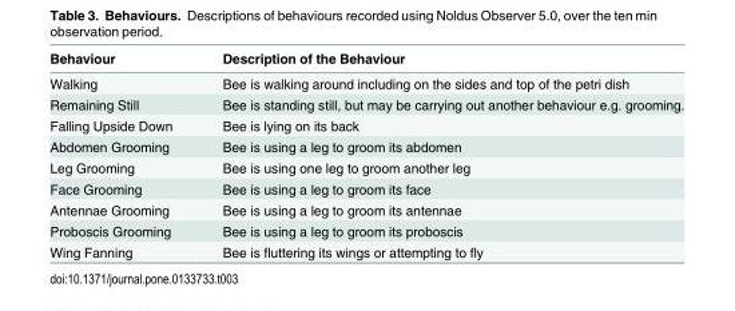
<table><thead><tr><td>Behaviour</td><td>Description of the Behaviour</td></tr></thead><tbody><tr><td>Walking</td><td>Bee is walking around including on the sides and top of the petri dish</td></tr><tr><td>Remaining Still</td><td>Bee is standing still, but may be carrying out another behaviour e.g. grooming.</td></tr><tr><td>Falling Upside Down</td><td>Bee is lying on its back</td></tr><tr><td>Abdomen Grooming</td><td>Bee is using a leg to groom its abdomen</td></tr><tr><td>Leg Grooming</td><td>Bee is using one leg to groom another leg</td></tr><tr><td>Face Grooming</td><td>Bee is using a leg to groom its face</td></tr><tr><td>Antennae Grooming</td><td>Bee is using a leg to groom its antennae</td></tr><tr><td>Proboscis Grooming</td><td>Bee is using a leg to groom its proboscis</td></tr><tr><td>Wing Fanning</td><td>Bee is fluttering its wings or attempting to fly</td></tr></tbody></table>